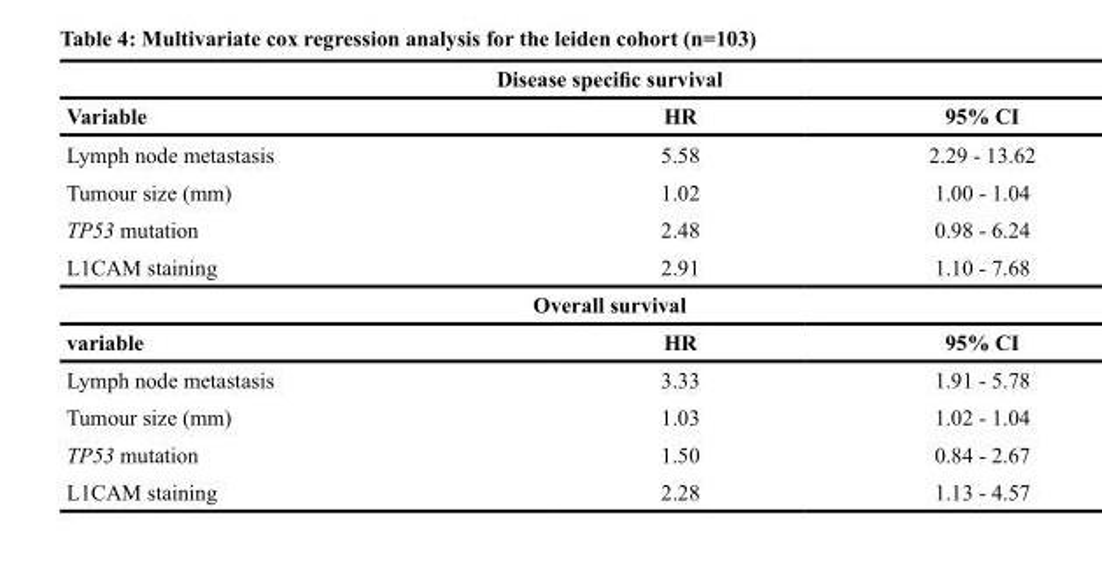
<table><thead><tr><td colspan="3">Disease specific survival</td></tr><tr><td>Variable</td><td>HR</td><td>95% CI</td></tr></thead><tbody><tr><td>Lymph node metastasis</td><td>5.58</td><td>2.29 - 13.62</td></tr><tr><td>Tumour size (mm)</td><td>1.02</td><td>1.00 - 1.04</td></tr><tr><td>TP53 mutation</td><td>2.48</td><td>0.98 - 6.24</td></tr><tr><td>L1CAM staining</td><td>2.91</td><td>1.10 - 7.68</td></tr><tr><td colspan="3">Overall survival</td></tr><tr><td>variable</td><td>HR</td><td>95% CI</td></tr><tr><td>Lymph node metastasis</td><td>3.33</td><td>1.91 - 5.78</td></tr><tr><td>Tumour size (mm)</td><td>1.03</td><td>1.02 - 1.04</td></tr><tr><td>TP53 mutation</td><td>1.50</td><td>0.84 - 2.67</td></tr><tr><td>L1CAM staining</td><td>2.28</td><td>1.13 - 4.57</td></tr></tbody></table>